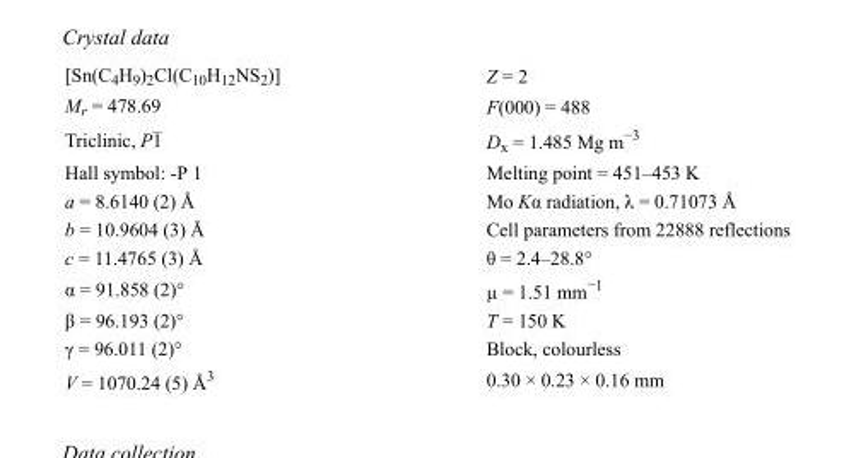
<table><tbody><tr><td>[Sn(C<sub>4</sub>H<sub>9</sub>)<sub>2</sub>Cl(C<sub>10</sub>H<sub>12</sub>NS<sub>2</sub>)]</td><td>Z = 2</td></tr><tr><td>M<sub>r</sub> = 478.69</td><td>F(000) = 488</td></tr><tr><td>Triclinic, P1</td><td>D<sub>x</sub> = 1.485 Mg m<sup>−3</sup></td></tr><tr><td>Hall symbol: -P 1</td><td>Melting point = 451–453 K</td></tr><tr><td>a = 8.6140 (2) Å</td><td>Mo Kα radiation, λ = 0.71073 Å</td></tr><tr><td>b = 10.9604 (3) Å</td><td>Cell parameters from 22888 reflections</td></tr><tr><td>c = 11.4765 (3) Å</td><td>θ = 2.4–28.8°</td></tr><tr><td>α = 91.858 (2)°</td><td>µ = 1.51 mm<sup>−1</sup></td></tr><tr><td>β = 96.193 (2)°</td><td>T = 150 K</td></tr><tr><td>γ = 96.011 (2)°</td><td>Block, colourless</td></tr><tr><td>V = 1070.24 (5) Å<sup>3</sup></td><td>0.30 × 0.23 × 0.16 mm</td></tr></tbody></table>